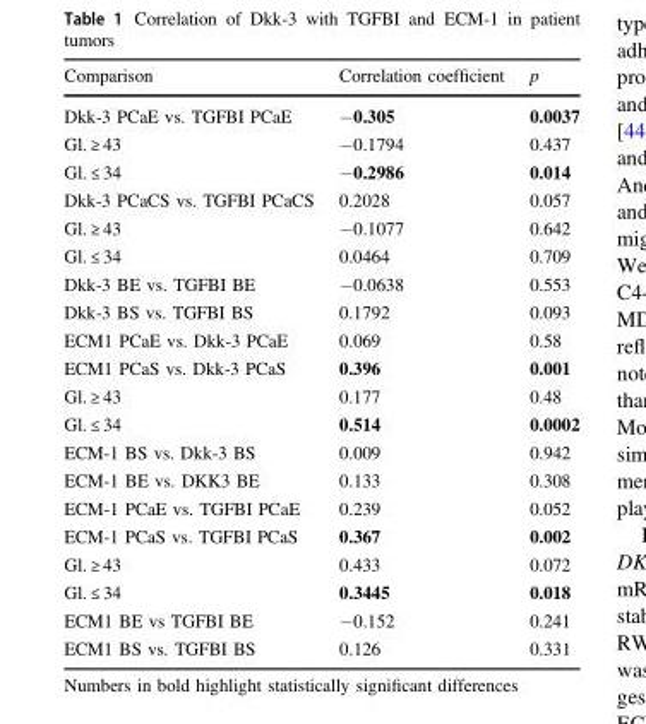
<table><thead><tr><td>Comparison</td><td>Correlation coefficient</td><td>p</td></tr></thead><tbody><tr><td>Dkk-3 PCaE vs. TGFBI PCaE</td><td>−0.305</td><td>0.0037</td></tr><tr><td>Gl. ≥ 43</td><td>−0.1794</td><td>0.437</td></tr><tr><td>Gl. ≤ 34</td><td>−0.2986</td><td>0.014</td></tr><tr><td>Dkk-3 PCaCS vs. TGFBI PCaCS</td><td>0.2028</td><td>0.057</td></tr><tr><td>Gl. ≥ 43</td><td>−0.1077</td><td>0.642</td></tr><tr><td>Gl. ≤ 34</td><td>0.0464</td><td>0.709</td></tr><tr><td>Dkk-3 BE vs. TGFBI BE</td><td>−0.0638</td><td>0.553</td></tr><tr><td>Dkk-3 BS vs. TGFBI BS</td><td>0.1792</td><td>0.093</td></tr><tr><td>ECM1 PCaE vs. Dkk-3 PCaE</td><td>0.069</td><td>0.58</td></tr><tr><td>ECM1 PCaS vs. Dkk-3 PCaS</td><td>0.396</td><td>0.001</td></tr><tr><td>Gl. ≥ 43</td><td>0.177</td><td>0.48</td></tr><tr><td>Gl. ≤ 34</td><td>0.514</td><td>0.0002</td></tr><tr><td>ECM-1 BS vs. Dkk-3 BS</td><td>0.009</td><td>0.942</td></tr><tr><td>ECM-1 BE vs. DKK3 BE</td><td>0.133</td><td>0.308</td></tr><tr><td>ECM-1 PCaE vs. TGFBI PCaE</td><td>0.239</td><td>0.052</td></tr><tr><td>ECM-1 PCaS vs. TGFBI PCaS</td><td>0.367</td><td>0.002</td></tr><tr><td>Gl. ≥ 43</td><td>0.433</td><td>0.072</td></tr><tr><td>Gl. ≤ 34</td><td>0.3445</td><td>0.018</td></tr><tr><td>ECM1 BE vs TGFBI BE</td><td>−0.152</td><td>0.241</td></tr><tr><td>ECM1 BS vs. TGFBI BS</td><td>0.126</td><td>0.331</td></tr></tbody></table>